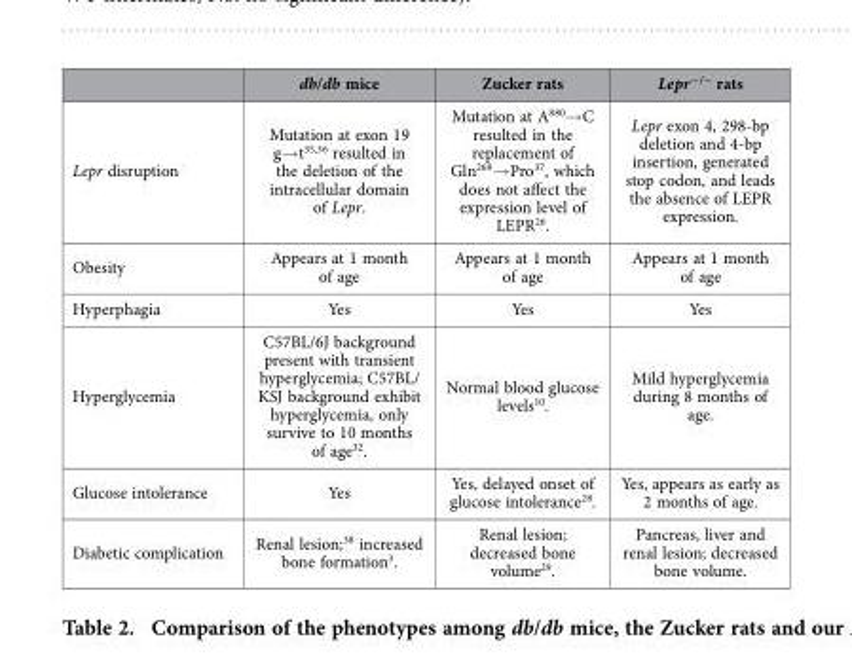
<table><thead><tr><td></td><td>db/db mice</td><td>Zucker rats</td><td>Lepr<sup>−/−</sup> rats</td></tr></thead><tbody><tr><td>Lepr disruption</td><td>Mutation at exon 19 g→ t<sup>35</sup>,<sup>36</sup> resulted in the deletion of the intracellular domain of Lepr.</td><td>Mutation at A<sup>880</sup>→ C resulted in the replacement of Gln<sup>269</sup>→ Pro<sup>37</sup>, which does not affect the expression level of LEPR<sup>26</sup>.</td><td>Lepr exon 4, 298-bp deletion and 4-bp insertion, generated stop codon, and leads the absence of LEPR expression.</td></tr><tr><td>Obesity</td><td>Appears at 1 month of age</td><td>Appears at 1 month of age</td><td>Appears at 1 month of age</td></tr><tr><td>Hyperphagia</td><td>Yes</td><td>Yes</td><td>Yes</td></tr><tr><td>Hyperglycemia</td><td>C57BL/6J background present with transient hyperglycemia; C57BL/ KSJ background exhibit hyperglycemia, only survive to 10 months of age<sup>32</sup>.</td><td>Normal blood glucose levels<sup>10</sup>.</td><td>Mild hyperglycemia during 8 months of age.</td></tr><tr><td>Glucose intolerance</td><td>Yes</td><td>Yes, delayed onset of glucose intolerance<sup>28</sup>.</td><td>Yes, appears as early as 2 months of age.</td></tr><tr><td>Diabetic complication</td><td>Renal lesion;<sup>38</sup> increased bone formation<sup>3</sup>.</td><td>Renal lesion; decreased bone volume<sup>29</sup>.</td><td>Pancreas, liver and renal lesion; decreased bone volume.</td></tr></tbody></table>